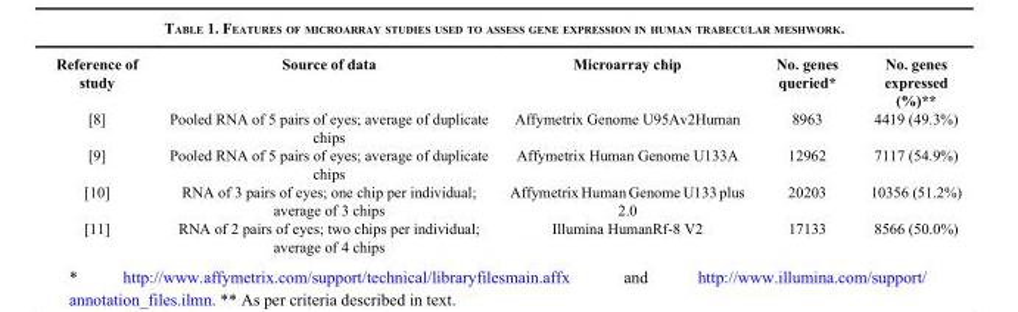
<table><thead><tr><td>Reference of study</td><td>Source of data</td><td>Microarray chip</td><td>No. genes queried*</td><td>No. genes expressed (%)**</td></tr></thead><tbody><tr><td>[8]</td><td>Pooled RNA of 5 pairs of eyes; average of duplicate chips</td><td>Affymetrix Genome U95Av2Human</td><td>8963</td><td>4419 (49.3%)</td></tr><tr><td>[9]</td><td>Pooled RNA of 5 pairs of eyes; average of duplicate chips</td><td>Affymetrix Human Genome U133A</td><td>12962</td><td>7117 (54.9%)</td></tr><tr><td>[10]</td><td>RNA of 3 pairs of eyes; one chip per individual; average of 3 chips</td><td>Affymetrix Human Genome U133 plus 2.0</td><td>20203</td><td>10356 (51.2%)</td></tr><tr><td>[11]</td><td>RNA of 2 pairs of eyes; two chips per individual; average of 4 chips</td><td>Illumina HumanRf-8 V2</td><td>17133</td><td>8566 (50.0%)</td></tr></tbody></table>